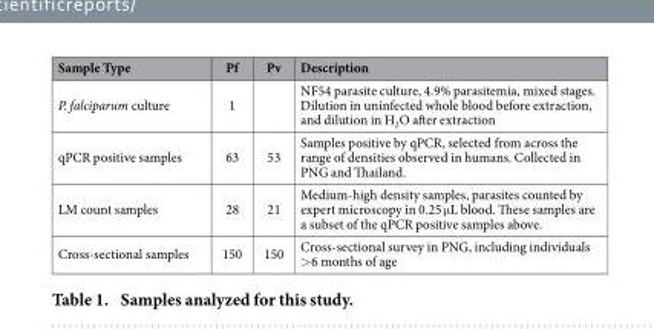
<table><thead><tr><td>Sample Type</td><td>Pf</td><td>Pv</td><td>Description</td></tr></thead><tbody><tr><td>P. falciparum culture</td><td>1</td><td></td><td>NF54 parasite culture, 4.9% parasitemia, mixed stages. Dilution in uninfected whole blood before extraction, and dilution in H<sub>2</sub>O after extraction</td></tr><tr><td>qPCR positive samples</td><td>63</td><td>53</td><td>Samples positive by qPCR, selected from across the range of densities observed in humans. Collected in PNG and Thailand.</td></tr><tr><td>LM count samples</td><td>28</td><td>21</td><td>Medium-high density samples, parasites counted by expert microscopy in 0.25 μ L blood. These samples are a subset of the qPCR positive samples above.</td></tr><tr><td>Cross-sectional samples</td><td>150</td><td>150</td><td>Cross-sectional survey in PNG, including individuals &gt; 6 months of age</td></tr></tbody></table>